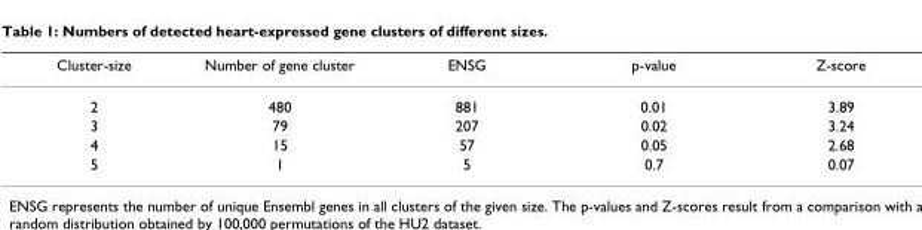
<table><thead><tr><td>Cluster-size</td><td>Number of gene cluster</td><td>ENSG</td><td>p-value</td><td>Z-score</td></tr></thead><tbody><tr><td>2</td><td>480</td><td>881</td><td>0.01</td><td>3.89</td></tr><tr><td>3</td><td>79</td><td>207</td><td>0.02</td><td>3.24</td></tr><tr><td>4</td><td>15</td><td>57</td><td>0.05</td><td>2.68</td></tr><tr><td>5</td><td>1</td><td>5</td><td>0.7</td><td>0.07</td></tr></tbody></table>